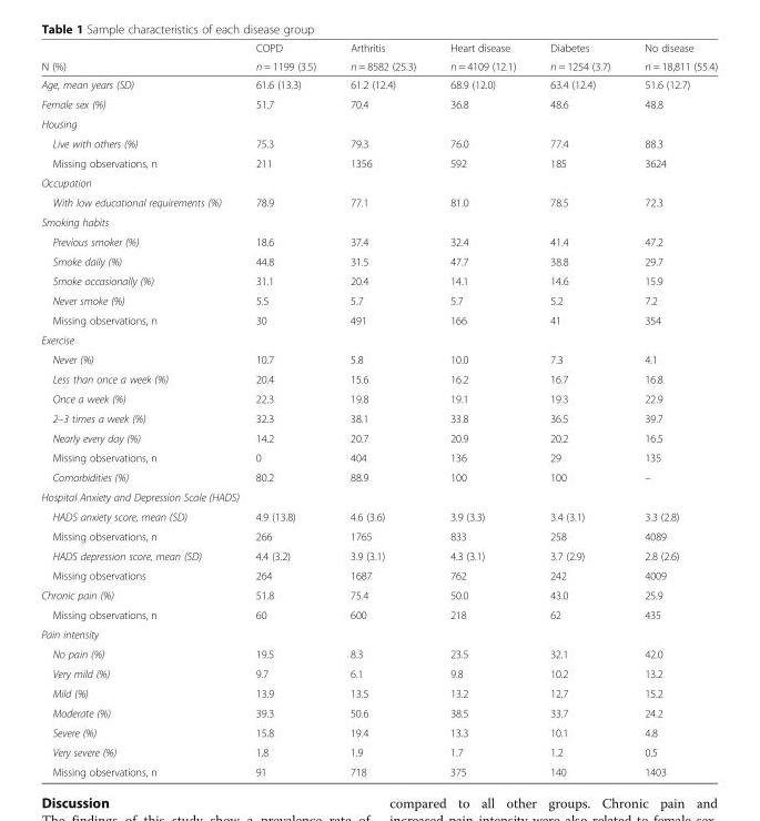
<table><thead><tr><td rowspan="2">N (%)</td><td rowspan="2">COPD n = 1199 (3.5)</td><td rowspan="2">Arthritis n = 8582 (25.3)</td><td rowspan="2">Heart disease n = 4109 (12.1)</td><td rowspan="2">Diabetes n = 1254 (3.7)</td><td rowspan="2">No disease n = 18,811 (55.4)</td></tr><tr></tr></thead><tbody><tr><td>Age, mean years (SD)</td><td>61.6 (13.3)</td><td>61.2 (12.4)</td><td>68.9 (12.0)</td><td>63.4 (12.4)</td><td>51.6 (12.7)</td></tr><tr><td>Female sex (%)</td><td>51.7</td><td>70.4</td><td>36.8</td><td>48.6</td><td>48.8</td></tr><tr><td colspan="6">Housing</td></tr><tr><td>Live with others (%)</td><td>75.3</td><td>79.3</td><td>76.0</td><td>77.4</td><td>88.3</td></tr><tr><td>Missing observations, n</td><td>211</td><td>1356</td><td>592</td><td>185</td><td>3624</td></tr><tr><td colspan="6">Occupation</td></tr><tr><td>With low educational requirements (%)</td><td>78.9</td><td>77.1</td><td>81.0</td><td>78.5</td><td>72.3</td></tr><tr><td colspan="6">Smoking habits</td></tr><tr><td>Previous smoker (%)</td><td>18.6</td><td>37.4</td><td>32.4</td><td>41.4</td><td>47.2</td></tr><tr><td>Smoke daily (%)</td><td>44.8</td><td>31.5</td><td>47.7</td><td>38.8</td><td>29.7</td></tr><tr><td>Smoke occasionally (%)</td><td>31.1</td><td>20.4</td><td>14.1</td><td>14.6</td><td>15.9</td></tr><tr><td>Never smoke (%)</td><td>5.5</td><td>5.7</td><td>5.7</td><td>5.2</td><td>7.2</td></tr><tr><td>Missing observations, n</td><td>30</td><td>491</td><td>166</td><td>41</td><td>354</td></tr><tr><td colspan="6">Exercise</td></tr><tr><td>Never (%)</td><td>10.7</td><td>5.8</td><td>10.0</td><td>7.3</td><td>4.1</td></tr><tr><td>Less than once a week (%)</td><td>20.4</td><td>15.6</td><td>16.2</td><td>16.7</td><td>16.8</td></tr><tr><td>Once a week (%)</td><td>22.3</td><td>19.8</td><td>19.1</td><td>19.3</td><td>22.9</td></tr><tr><td>2–3 times a week (%)</td><td>32.3</td><td>38.1</td><td>33.8</td><td>36.5</td><td>39.7</td></tr><tr><td>Nearly every day (%)</td><td>14.2</td><td>20.7</td><td>20.9</td><td>20.2</td><td>16.5</td></tr><tr><td>Missing observations, n</td><td>0</td><td>404</td><td>136</td><td>29</td><td>135</td></tr><tr><td>Comorbidities (%)</td><td>80.2</td><td>88.9</td><td>100</td><td>100</td><td>–</td></tr><tr><td colspan="6">Hospital Anxiety and Depression Scale (HADS)</td></tr><tr><td>HADS anxiety score, mean (SD)</td><td>4.9 (13.8)</td><td>4.6 (3.6)</td><td>3.9 (3.3)</td><td>3.4 (3.1)</td><td>3.3 (2.8)</td></tr><tr><td>Missing observations, n</td><td>266</td><td>1765</td><td>833</td><td>258</td><td>4089</td></tr><tr><td>HADS depression score, mean (SD)</td><td>4.4 (3.2)</td><td>3.9 (3.1)</td><td>4.3 (3.1)</td><td>3.7 (2.9)</td><td>2.8 (2.6)</td></tr><tr><td>Missing observations</td><td>264</td><td>1687</td><td>762</td><td>242</td><td>4009</td></tr><tr><td>Chronic pain (%)</td><td>51.8</td><td>75.4</td><td>50.0</td><td>43.0</td><td>25.9</td></tr><tr><td>Missing observations, n</td><td>60</td><td>600</td><td>218</td><td>62</td><td>435</td></tr><tr><td colspan="6">Pain intensity</td></tr><tr><td>No pain (%)</td><td>19.5</td><td>8.3</td><td>23.5</td><td>32.1</td><td>42.0</td></tr><tr><td>Very mild (%)</td><td>9.7</td><td>6.1</td><td>9.8</td><td>10.2</td><td>13.2</td></tr><tr><td>Mild (%)</td><td>13.9</td><td>13.5</td><td>13.2</td><td>12.7</td><td>15.2</td></tr><tr><td>Moderate (%)</td><td>39.3</td><td>50.6</td><td>38.5</td><td>33.7</td><td>24.2</td></tr><tr><td>Severe (%)</td><td>15.8</td><td>19.4</td><td>13.3</td><td>10.1</td><td>4.8</td></tr><tr><td>Very severe (%)</td><td>1.8</td><td>1.9</td><td>1.7</td><td>1.2</td><td>0.5</td></tr><tr><td>Missing observations, n</td><td>91</td><td>718</td><td>375</td><td>140</td><td>1403</td></tr></tbody></table>